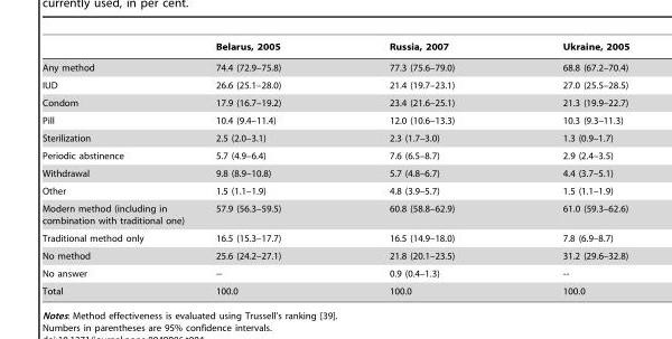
<table><thead><tr><td></td><td>Belarus, 2005</td><td>Russia, 2007</td><td>Ukraine, 2005</td></tr></thead><tbody><tr><td>Any method</td><td>74.4 (72.9–75.8)</td><td>77.3 (75.6–79.0)</td><td>68.8 (67.2–70.4)</td></tr><tr><td>IUD</td><td>26.6 (25.1–28.0)</td><td>21.4 (19.7–23.1)</td><td>27.0 (25.5–28.5)</td></tr><tr><td>Condom</td><td>17.9 (16.7–19.2)</td><td>23.4 (21.6–25.1)</td><td>21.3 (19.9–22.7)</td></tr><tr><td>Pill</td><td>10.4 (9.4–11.4)</td><td>12.0 (10.6–13.3)</td><td>10.3 (9.3–11.3)</td></tr><tr><td>Sterilization</td><td>2.5 (2.0–3.1)</td><td>2.3 (1.7–3.0)</td><td>1.3 (0.9–1.7)</td></tr><tr><td>Periodic abstinence</td><td>5.7 (4.9–6.4)</td><td>7.6 (6.5–8.7)</td><td>2.9 (2.4–3.5)</td></tr><tr><td>Withdrawal</td><td>9.8 (8.9–10.8)</td><td>5.7 (4.8–6.7)</td><td>4.4 (3.7–5.1)</td></tr><tr><td>Other</td><td>1.5 (1.1–1.9)</td><td>4.8 (3.9–5.7)</td><td>1.5 (1.1–1.9)</td></tr><tr><td>Modern method (including in combination with traditional one)</td><td>57.9 (56.3–59.5)</td><td>60.8 (58.8–62.9)</td><td>61.0 (59.3–62.6)</td></tr><tr><td>Traditional method only</td><td>16.5 (15.3–17.7)</td><td>16.5 (14.9–18.0)</td><td>7.8 (6.9–8.7)</td></tr><tr><td>No method</td><td>25.6 (24.2–27.1)</td><td>21.8 (20.1–23.5)</td><td>31.2 (29.6–32.8)</td></tr><tr><td>No answer</td><td>--</td><td>0.9 (0.4–1.3)</td><td>--</td></tr><tr><td>Total</td><td>100.0</td><td>100.0</td><td>100.0</td></tr></tbody></table>